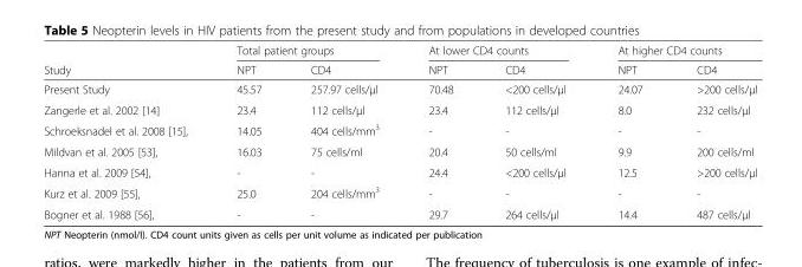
<table><thead><tr><td rowspan="2">Study</td><td colspan="2">Total patient groups</td><td colspan="2">At lower CD4 counts</td><td colspan="2">At higher CD4 counts</td></tr><tr><td>NPT</td><td>CD4</td><td>NPT</td><td>CD4</td><td>NPT</td><td>CD4</td></tr></thead><tbody><tr><td>Present Study</td><td>45.57</td><td>257.97 cells/μl</td><td>70.48</td><td>&lt;200 cells/μl</td><td>24.07</td><td>&gt;200 cells/μl</td></tr><tr><td>Zangerle et al. 2002 [14]</td><td>23.4</td><td>112 cells/μl</td><td>23.4</td><td>112 cells/μl</td><td>8.0</td><td>232 cells/μl</td></tr><tr><td>Schroeksnadel et al. 2008 [15],</td><td>14.05</td><td>404 cells/mm<sup>3</sup></td><td>-</td><td>-</td><td>-</td><td>-</td></tr><tr><td>Mildvan et al. 2005 [53],</td><td>16.03</td><td>75 cells/ml</td><td>20.4</td><td>50 cells/ml</td><td>9.9</td><td>200 cells/ml</td></tr><tr><td>Hanna et al. 2009 [54],</td><td>-</td><td>-</td><td>24.4</td><td>&lt;200 cells/μl</td><td>12.5</td><td>&gt;200 cells/μl</td></tr><tr><td>Kurz et al. 2009 [55],</td><td>25.0</td><td>204 cells/mm<sup>3</sup></td><td>-</td><td>-</td><td>-</td><td>-</td></tr><tr><td>Bogner et al. 1988 [56],</td><td>-</td><td>-</td><td>29.7</td><td>264 cells/μl</td><td>14.4</td><td>487 cells/μl</td></tr></tbody></table>